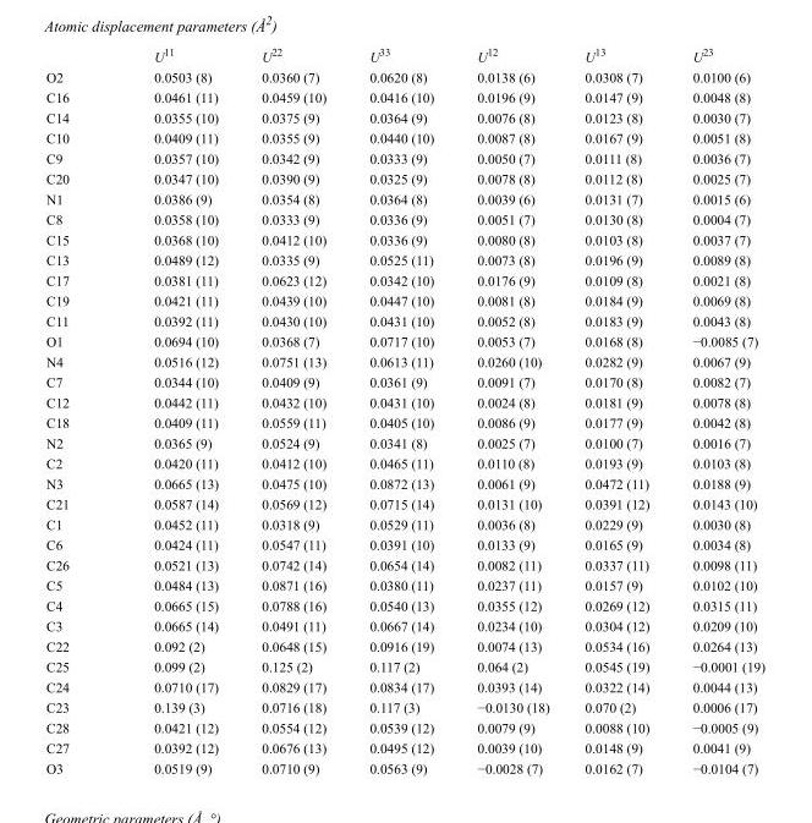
<table><thead><tr><td></td><td>U<sup>11</sup></td><td>U<sup>22</sup></td><td>U<sup>33</sup></td><td>U<sup>12</sup></td><td>U<sup>13</sup></td><td>U<sup>23</sup></td></tr></thead><tbody><tr><td>O2</td><td>0.0503 (8)</td><td>0.0360 (7)</td><td>0.0620 (8)</td><td>0.0138 (6)</td><td>0.0308 (7)</td><td>0.0100 (6)</td></tr><tr><td>C16</td><td>0.0461 (11)</td><td>0.0459 (10)</td><td>0.0416 (10)</td><td>0.0196 (9)</td><td>0.0147 (9)</td><td>0.0048 (8)</td></tr><tr><td>C14</td><td>0.0355 (10)</td><td>0.0375 (9)</td><td>0.0364 (9)</td><td>0.0076 (8)</td><td>0.0123 (8)</td><td>0.0030 (7)</td></tr><tr><td>C10</td><td>0.0409 (11)</td><td>0.0355 (9)</td><td>0.0440 (10)</td><td>0.0087 (8)</td><td>0.0167 (9)</td><td>0.0051 (8)</td></tr><tr><td>C9</td><td>0.0357 (10)</td><td>0.0342 (9)</td><td>0.0333 (9)</td><td>0.0050 (7)</td><td>0.0111 (8)</td><td>0.0036 (7)</td></tr><tr><td>C20</td><td>0.0347 (10)</td><td>0.0390 (9)</td><td>0.0325 (9)</td><td>0.0078 (8)</td><td>0.0112 (8)</td><td>0.0025 (7)</td></tr><tr><td>N1</td><td>0.0386 (9)</td><td>0.0354 (8)</td><td>0.0364 (8)</td><td>0.0039 (6)</td><td>0.0131 (7)</td><td>0.0015 (6)</td></tr><tr><td>C8</td><td>0.0358 (10)</td><td>0.0333 (9)</td><td>0.0336 (9)</td><td>0.0051 (7)</td><td>0.0130 (8)</td><td>0.0004 (7)</td></tr><tr><td>C15</td><td>0.0368 (10)</td><td>0.0412 (10)</td><td>0.0336 (9)</td><td>0.0080 (8)</td><td>0.0103 (8)</td><td>0.0037 (7)</td></tr><tr><td>C13</td><td>0.0489 (12)</td><td>0.0335 (9)</td><td>0.0525 (11)</td><td>0.0073 (8)</td><td>0.0196 (9)</td><td>0.0089 (8)</td></tr><tr><td>C17</td><td>0.0381 (11)</td><td>0.0623 (12)</td><td>0.0342 (10)</td><td>0.0176 (9)</td><td>0.0109 (8)</td><td>0.0021 (8)</td></tr><tr><td>C19</td><td>0.0421 (11)</td><td>0.0439 (10)</td><td>0.0447 (10)</td><td>0.0081 (8)</td><td>0.0184 (9)</td><td>0.0069 (8)</td></tr><tr><td>C11</td><td>0.0392 (11)</td><td>0.0430 (10)</td><td>0.0431 (10)</td><td>0.0052 (8)</td><td>0.0183 (9)</td><td>0.0043 (8)</td></tr><tr><td>O1</td><td>0.0694 (10)</td><td>0.0368 (7)</td><td>0.0717 (10)</td><td>0.0053 (7)</td><td>0.0168 (8)</td><td>−0.0085 (7)</td></tr><tr><td>N4</td><td>0.0516 (12)</td><td>0.0751 (13)</td><td>0.0613 (11)</td><td>0.0260 (10)</td><td>0.0282 (9)</td><td>0.0067 (9)</td></tr><tr><td>C7</td><td>0.0344 (10)</td><td>0.0409 (9)</td><td>0.0361 (9)</td><td>0.0091 (7)</td><td>0.0170 (8)</td><td>0.0082 (7)</td></tr><tr><td>C12</td><td>0.0442 (11)</td><td>0.0432 (10)</td><td>0.0431 (10)</td><td>0.0024 (8)</td><td>0.0181 (9)</td><td>0.0078 (8)</td></tr><tr><td>C18</td><td>0.0409 (11)</td><td>0.0559 (11)</td><td>0.0405 (10)</td><td>0.0086 (9)</td><td>0.0177 (9)</td><td>0.0042 (8)</td></tr><tr><td>N2</td><td>0.0365 (9)</td><td>0.0524 (9)</td><td>0.0341 (8)</td><td>0.0025 (7)</td><td>0.0100 (7)</td><td>0.0016 (7)</td></tr><tr><td>C2</td><td>0.0420 (11)</td><td>0.0412 (10)</td><td>0.0465 (11)</td><td>0.0110 (8)</td><td>0.0193 (9)</td><td>0.0103 (8)</td></tr><tr><td>N3</td><td>0.0665 (13)</td><td>0.0475 (10)</td><td>0.0872 (13)</td><td>0.0061 (9)</td><td>0.0472 (11)</td><td>0.0188 (9)</td></tr><tr><td>C21</td><td>0.0587 (14)</td><td>0.0569 (12)</td><td>0.0715 (14)</td><td>0.0131 (10)</td><td>0.0391 (12)</td><td>0.0143 (10)</td></tr><tr><td>C1</td><td>0.0452 (11)</td><td>0.0318 (9)</td><td>0.0529 (11)</td><td>0.0036 (8)</td><td>0.0229 (9)</td><td>0.0030 (8)</td></tr><tr><td>C6</td><td>0.0424 (11)</td><td>0.0547 (11)</td><td>0.0391 (10)</td><td>0.0133 (9)</td><td>0.0165 (9)</td><td>0.0034 (8)</td></tr><tr><td>C26</td><td>0.0521 (13)</td><td>0.0742 (14)</td><td>0.0654 (14)</td><td>0.0082 (11)</td><td>0.0337 (11)</td><td>0.0098 (11)</td></tr><tr><td>C5</td><td>0.0484 (13)</td><td>0.0871 (16)</td><td>0.0380 (11)</td><td>0.0237 (11)</td><td>0.0157 (9)</td><td>0.0102 (10)</td></tr><tr><td>C4</td><td>0.0665 (15)</td><td>0.0788 (16)</td><td>0.0540 (13)</td><td>0.0355 (12)</td><td>0.0269 (12)</td><td>0.0315 (11)</td></tr><tr><td>C3</td><td>0.0665 (14)</td><td>0.0491 (11)</td><td>0.0667 (14)</td><td>0.0234 (10)</td><td>0.0304 (12)</td><td>0.0209 (10)</td></tr><tr><td>C22</td><td>0.092 (2)</td><td>0.0648 (15)</td><td>0.0916 (19)</td><td>0.0074 (13)</td><td>0.0534 (16)</td><td>0.0264 (13)</td></tr><tr><td>C25</td><td>0.099 (2)</td><td>0.125 (2)</td><td>0.117 (2)</td><td>0.064 (2)</td><td>0.0545 (19)</td><td>−0.0001 (19)</td></tr><tr><td>C24</td><td>0.0710 (17)</td><td>0.0829 (17)</td><td>0.0834 (17)</td><td>0.0393 (14)</td><td>0.0322 (14)</td><td>0.0044 (13)</td></tr><tr><td>C23</td><td>0.139 (3)</td><td>0.0716 (18)</td><td>0.117 (3)</td><td>−0.0130 (18)</td><td>0.070 (2)</td><td>0.0006 (17)</td></tr><tr><td>C28</td><td>0.0421 (12)</td><td>0.0554 (12)</td><td>0.0539 (12)</td><td>0.0079 (9)</td><td>0.0088 (10)</td><td>−0.0005 (9)</td></tr><tr><td>C27</td><td>0.0392 (12)</td><td>0.0676 (13)</td><td>0.0495 (12)</td><td>0.0039 (10)</td><td>0.0148 (9)</td><td>0.0041 (9)</td></tr><tr><td>O3</td><td>0.0519 (9)</td><td>0.0710 (9)</td><td>0.0563 (9)</td><td>−0.0028 (7)</td><td>0.0162 (7)</td><td>−0.0104 (7)</td></tr></tbody></table>